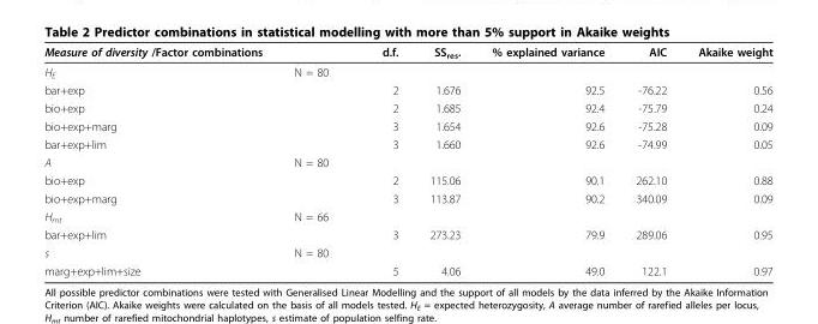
<table><thead><tr><td>Measure of diversity /Factor combinations</td><td></td><td>d.f.</td><td>SS<sub>res</sub>.</td><td>% explained variance</td><td>AIC</td><td>Akaike weight</td></tr></thead><tbody><tr><td>H<sub>E</sub></td><td>N = 80</td><td></td><td></td><td></td><td></td><td></td></tr><tr><td>bar+exp</td><td></td><td>2</td><td>1.676</td><td>92.5</td><td>-76.22</td><td>0.56</td></tr><tr><td>bio+exp</td><td></td><td>2</td><td>1.685</td><td>92.4</td><td>-75.79</td><td>0.24</td></tr><tr><td>bio+exp+marg</td><td></td><td>3</td><td>1.654</td><td>92.6</td><td>-75.28</td><td>0.09</td></tr><tr><td>bar+exp+lim</td><td></td><td>3</td><td>1.660</td><td>92.6</td><td>-74.99</td><td>0.05</td></tr><tr><td>A</td><td>N = 80</td><td></td><td></td><td></td><td></td><td></td></tr><tr><td>bio+exp</td><td></td><td>2</td><td>115.06</td><td>90.1</td><td>262.10</td><td>0.88</td></tr><tr><td>bio+exp+marg</td><td></td><td>3</td><td>113.87</td><td>90.2</td><td>340.09</td><td>0.09</td></tr><tr><td>H<sub>mt</sub></td><td>N = 66</td><td></td><td></td><td></td><td></td><td></td></tr><tr><td>bar+exp+lim</td><td></td><td>3</td><td>273.23</td><td>79.9</td><td>289.06</td><td>0.95</td></tr><tr><td>s</td><td>N = 80</td><td></td><td></td><td></td><td></td><td></td></tr><tr><td>marg+exp+lim+size</td><td></td><td>5</td><td>4.06</td><td>49.0</td><td>122.1</td><td>0.97</td></tr></tbody></table>